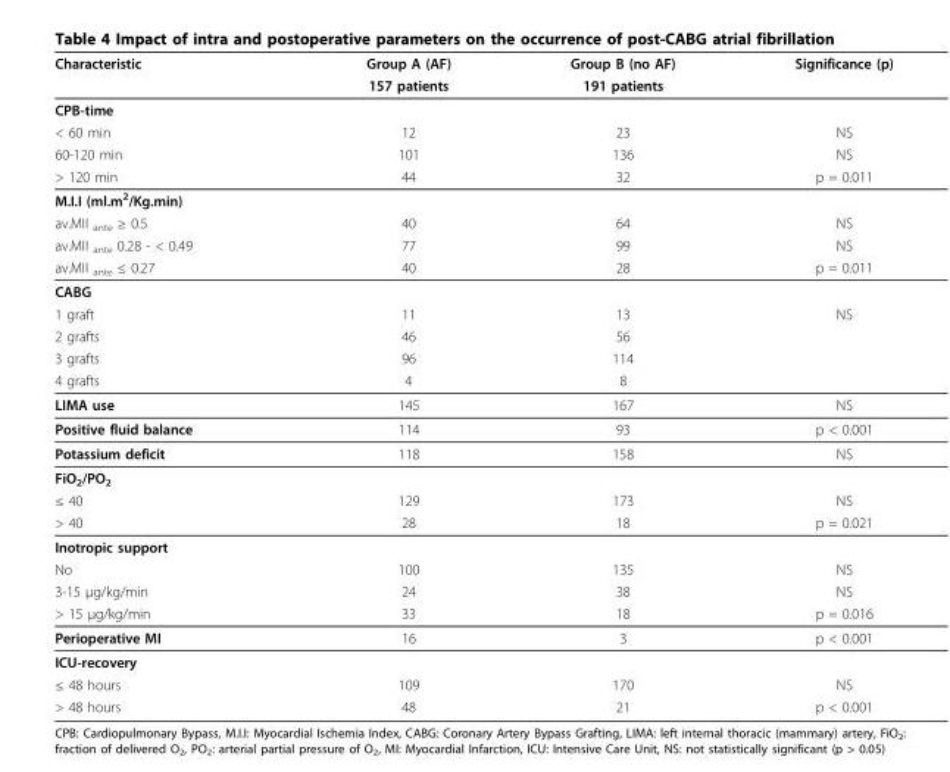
<table><thead><tr><td rowspan="2">Characteristic</td><td rowspan="2">Group A (AF) 157 patients</td><td rowspan="2">Group B (no AF) 191 patients</td><td rowspan="2">Significance (p)</td></tr><tr></tr></thead><tbody><tr><td colspan="4">CPB-time</td></tr><tr><td>&lt; 60 min</td><td>12</td><td>23</td><td>NS</td></tr><tr><td>60-120 min</td><td>101</td><td>136</td><td>NS</td></tr><tr><td>&gt; 120 min</td><td>44</td><td>32</td><td>p = 0.011</td></tr><tr><td colspan="4">M.I.I (ml.m<sup>2</sup>/Kg.min)</td></tr><tr><td>av.MII <sub>ante</sub> ≥ 0.5</td><td>40</td><td>64</td><td>NS</td></tr><tr><td>av.MII <sub>ante</sub> 0.28 - &lt; 0.49</td><td>77</td><td>99</td><td>NS</td></tr><tr><td>av.MII <sub>ante</sub> ≤ 0.27</td><td>40</td><td>28</td><td>p = 0.011</td></tr><tr><td colspan="4">CABG</td></tr><tr><td>1 graft</td><td>11</td><td>13</td><td>NS</td></tr><tr><td>2 grafts</td><td>46</td><td>56</td><td></td></tr><tr><td>3 grafts</td><td>96</td><td>114</td><td></td></tr><tr><td>4 grafts</td><td>4</td><td>8</td><td></td></tr><tr><td>LIMA use</td><td>145</td><td>167</td><td>NS</td></tr><tr><td>Positive fluid balance</td><td>114</td><td>93</td><td>p &lt; 0.001</td></tr><tr><td>Potassium deficit</td><td>118</td><td>158</td><td>NS</td></tr><tr><td colspan="4">FiO<sub>2</sub>/PO<sub>2</sub></td></tr><tr><td>≤ 40</td><td>129</td><td>173</td><td>NS</td></tr><tr><td>&gt; 40</td><td>28</td><td>18</td><td>p = 0.021</td></tr><tr><td colspan="4">Inotropic support</td></tr><tr><td>No</td><td>100</td><td>135</td><td>NS</td></tr><tr><td>3-15 μg/kg/min</td><td>24</td><td>38</td><td>NS</td></tr><tr><td>&gt; 15 μg/kg/min</td><td>33</td><td>18</td><td>p = 0.016</td></tr><tr><td>Perioperative MI</td><td>16</td><td>3</td><td>p &lt; 0.001</td></tr><tr><td colspan="4">ICU-recovery</td></tr><tr><td>≤ 48 hours</td><td>109</td><td>170</td><td>NS</td></tr><tr><td>&gt; 48 hours</td><td>48</td><td>21</td><td>p &lt; 0.001</td></tr></tbody></table>